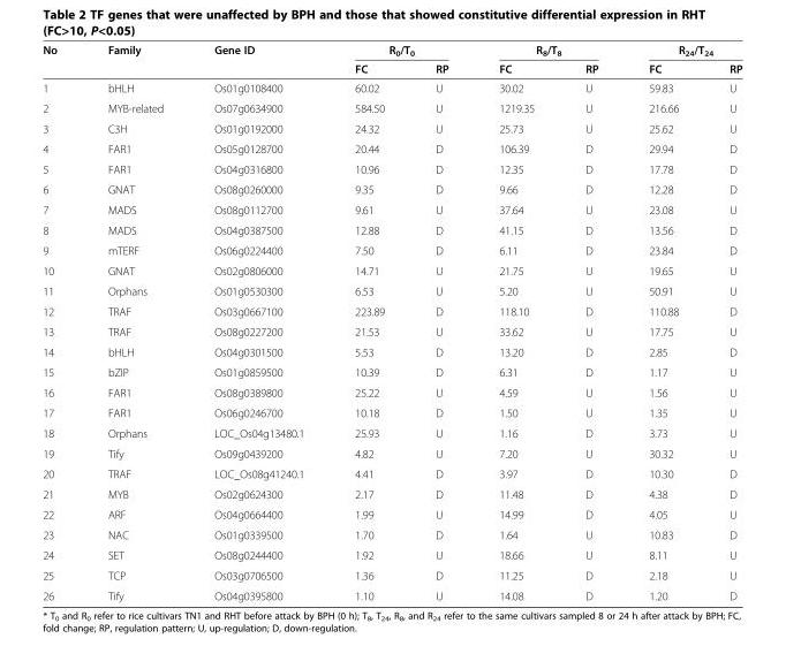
<table><thead><tr><td rowspan="2">No</td><td rowspan="2">Family</td><td rowspan="2">Gene ID</td><td colspan="2">R<sub>0</sub>/T<sub>0</sub></td><td colspan="2">R<sub>8</sub>/T<sub>8</sub></td><td colspan="2">R<sub>24</sub>/T<sub>24</sub></td></tr><tr><td>FC</td><td>RP</td><td>FC</td><td>RP</td><td>FC</td><td>RP</td></tr></thead><tbody><tr><td>1</td><td>bHLH</td><td>Os01g0108400</td><td>60.02</td><td>U</td><td>30.02</td><td>U</td><td>59.83</td><td>U</td></tr><tr><td>2</td><td>MYB-related</td><td>Os07g0634900</td><td>584.50</td><td>U</td><td>1219.35</td><td>U</td><td>216.66</td><td>U</td></tr><tr><td>3</td><td>C3H</td><td>Os01g0192000</td><td>24.32</td><td>U</td><td>25.73</td><td>U</td><td>25.62</td><td>U</td></tr><tr><td>4</td><td>FAR1</td><td>Os05g0128700</td><td>20.44</td><td>D</td><td>106.39</td><td>D</td><td>29.94</td><td>D</td></tr><tr><td>5</td><td>FAR1</td><td>Os04g0316800</td><td>10.96</td><td>D</td><td>12.35</td><td>D</td><td>17.78</td><td>D</td></tr><tr><td>6</td><td>GNAT</td><td>Os08g0260000</td><td>9.35</td><td>D</td><td>9.66</td><td>D</td><td>12.28</td><td>D</td></tr><tr><td>7</td><td>MADS</td><td>Os08g0112700</td><td>9.61</td><td>U</td><td>37.64</td><td>U</td><td>23.08</td><td>U</td></tr><tr><td>8</td><td>MADS</td><td>Os04g0387500</td><td>12.88</td><td>D</td><td>41.15</td><td>D</td><td>13.56</td><td>D</td></tr><tr><td>9</td><td>mTERF</td><td>Os06g0224400</td><td>7.50</td><td>D</td><td>6.11</td><td>D</td><td>23.84</td><td>D</td></tr><tr><td>10</td><td>GNAT</td><td>Os02g0806000</td><td>14.71</td><td>U</td><td>21.75</td><td>U</td><td>19.65</td><td>U</td></tr><tr><td>11</td><td>Orphans</td><td>Os01g0530300</td><td>6.53</td><td>U</td><td>5.20</td><td>U</td><td>50.91</td><td>U</td></tr><tr><td>12</td><td>TRAF</td><td>Os03g0667100</td><td>223.89</td><td>D</td><td>118.10</td><td>D</td><td>110.88</td><td>D</td></tr><tr><td>13</td><td>TRAF</td><td>Os08g0227200</td><td>21.53</td><td>U</td><td>33.62</td><td>U</td><td>17.75</td><td>U</td></tr><tr><td>14</td><td>bHLH</td><td>Os04g0301500</td><td>5.53</td><td>D</td><td>13.20</td><td>D</td><td>2.85</td><td>D</td></tr><tr><td>15</td><td>bZIP</td><td>Os01g0859500</td><td>10.39</td><td>D</td><td>6.31</td><td>D</td><td>1.17</td><td>U</td></tr><tr><td>16</td><td>FAR1</td><td>Os08g0389800</td><td>25.22</td><td>U</td><td>4.59</td><td>U</td><td>1.56</td><td>U</td></tr><tr><td>17</td><td>FAR1</td><td>Os06g0246700</td><td>10.18</td><td>D</td><td>1.50</td><td>U</td><td>1.35</td><td>U</td></tr><tr><td>18</td><td>Orphans</td><td>LOC_Os04g13480.1</td><td>25.93</td><td>U</td><td>1.16</td><td>D</td><td>3.73</td><td>U</td></tr><tr><td>19</td><td>Tify</td><td>Os09g0439200</td><td>4.82</td><td>U</td><td>7.20</td><td>U</td><td>30.32</td><td>U</td></tr><tr><td>20</td><td>TRAF</td><td>LOC_Os08g41240.1</td><td>4.41</td><td>D</td><td>3.97</td><td>D</td><td>10.30</td><td>D</td></tr><tr><td>21</td><td>MYB</td><td>Os02g0624300</td><td>2.17</td><td>D</td><td>11.48</td><td>D</td><td>4.38</td><td>D</td></tr><tr><td>22</td><td>ARF</td><td>Os04g0664400</td><td>1.99</td><td>U</td><td>14.99</td><td>D</td><td>4.05</td><td>U</td></tr><tr><td>23</td><td>NAC</td><td>Os01g0339500</td><td>1.70</td><td>D</td><td>1.64</td><td>U</td><td>10.83</td><td>D</td></tr><tr><td>24</td><td>SET</td><td>Os08g0244400</td><td>1.92</td><td>U</td><td>18.66</td><td>U</td><td>8.11</td><td>U</td></tr><tr><td>25</td><td>TCP</td><td>Os03g0706500</td><td>1.36</td><td>D</td><td>11.25</td><td>D</td><td>2.18</td><td>U</td></tr><tr><td>26</td><td>Tify</td><td>Os04g0395800</td><td>1.10</td><td>U</td><td>14.08</td><td>D</td><td>1.20</td><td>D</td></tr></tbody></table>